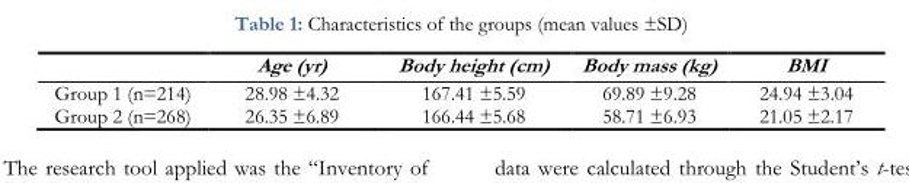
<table><thead><tr><td></td><td>Age (yr)</td><td>Body height (cm)</td><td>Body mass (kg)</td><td>BMI</td></tr></thead><tbody><tr><td>Group 1 (n=214)</td><td>28.98 ±4.32</td><td>167.41 ±5.59</td><td>69.89 ±9.28</td><td>24.94 ±3.04</td></tr><tr><td>Group 2 (n=268)</td><td>26.35 ±6.89</td><td>166.44 ±5.68</td><td>58.71 ±6.93</td><td>21.05 ±2.17</td></tr></tbody></table>